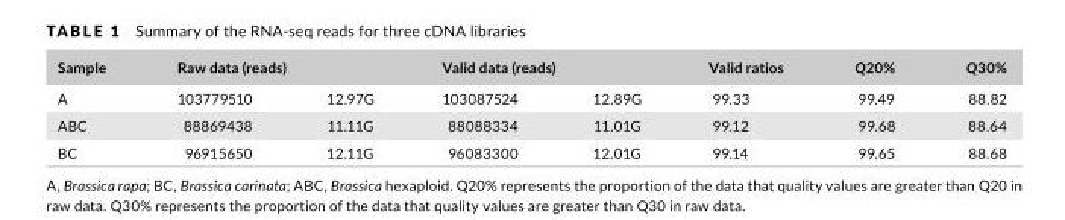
<table><thead><tr><td rowspan="2">Sample A</td><td colspan="2">Raw data (reads)</td><td colspan="2">Valid data (reads)</td><td rowspan="2">Valid ratios 99.33</td><td rowspan="2">Q20% 99.49</td><td rowspan="2">Q30% 88.82</td></tr><tr><td>103779510</td><td>12.97G</td><td>103087524</td><td>12.89G</td></tr></thead><tbody><tr><td>ABC</td><td>88869438</td><td>11.11G</td><td>88088334</td><td>11.01G</td><td>99.12</td><td>99.68</td><td>88.64</td></tr><tr><td>BC</td><td>96915650</td><td>12.11G</td><td>96083300</td><td>12.01G</td><td>99.14</td><td>99.65</td><td>88.68</td></tr></tbody></table>